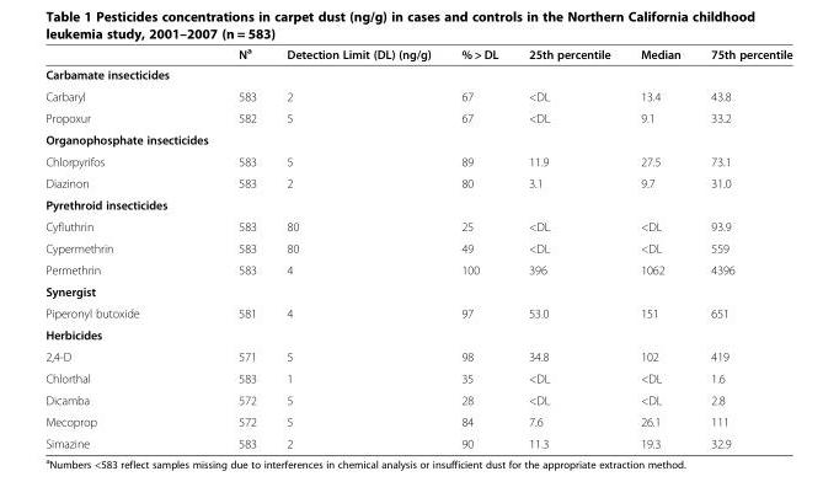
<table><thead><tr><td></td><td>N<sup>a</sup></td><td>Detection Limit (DL) (ng/g)</td><td>% &gt; DL</td><td>25th percentile</td><td>Median</td><td>75th percentile</td></tr></thead><tbody><tr><td colspan="7">Carbamate insecticides</td></tr><tr><td>Carbaryl</td><td>583</td><td>2</td><td>67</td><td>&lt;DL</td><td>13.4</td><td>43.8</td></tr><tr><td>Propoxur</td><td>582</td><td>5</td><td>67</td><td>&lt;DL</td><td>9.1</td><td>33.2</td></tr><tr><td colspan="7">Organophosphate insecticides</td></tr><tr><td>Chlorpyrifos</td><td>583</td><td>5</td><td>89</td><td>11.9</td><td>27.5</td><td>73.1</td></tr><tr><td>Diazinon</td><td>583</td><td>2</td><td>80</td><td>3.1</td><td>9.7</td><td>31.0</td></tr><tr><td colspan="7">Pyrethroid insecticides</td></tr><tr><td>Cyfluthrin</td><td>583</td><td>80</td><td>25</td><td>&lt;DL</td><td>&lt;DL</td><td>93.9</td></tr><tr><td>Cypermethrin</td><td>583</td><td>80</td><td>49</td><td>&lt;DL</td><td>&lt;DL</td><td>559</td></tr><tr><td>Permethrin</td><td>583</td><td>4</td><td>100</td><td>396</td><td>1062</td><td>4396</td></tr><tr><td colspan="7">Synergist</td></tr><tr><td>Piperonyl butoxide</td><td>581</td><td>4</td><td>97</td><td>53.0</td><td>151</td><td>651</td></tr><tr><td colspan="7">Herbicides</td></tr><tr><td>2,4-D</td><td>571</td><td>5</td><td>98</td><td>34.8</td><td>102</td><td>419</td></tr><tr><td>Chlorthal</td><td>583</td><td>1</td><td>35</td><td>&lt;DL</td><td>&lt;DL</td><td>1.6</td></tr><tr><td>Dicamba</td><td>572</td><td>5</td><td>28</td><td>&lt;DL</td><td>&lt;DL</td><td>2.8</td></tr><tr><td>Mecoprop</td><td>572</td><td>5</td><td>84</td><td>7.6</td><td>26.1</td><td>111</td></tr><tr><td>Simazine</td><td>583</td><td>2</td><td>90</td><td>11.3</td><td>19.3</td><td>32.9</td></tr></tbody></table>